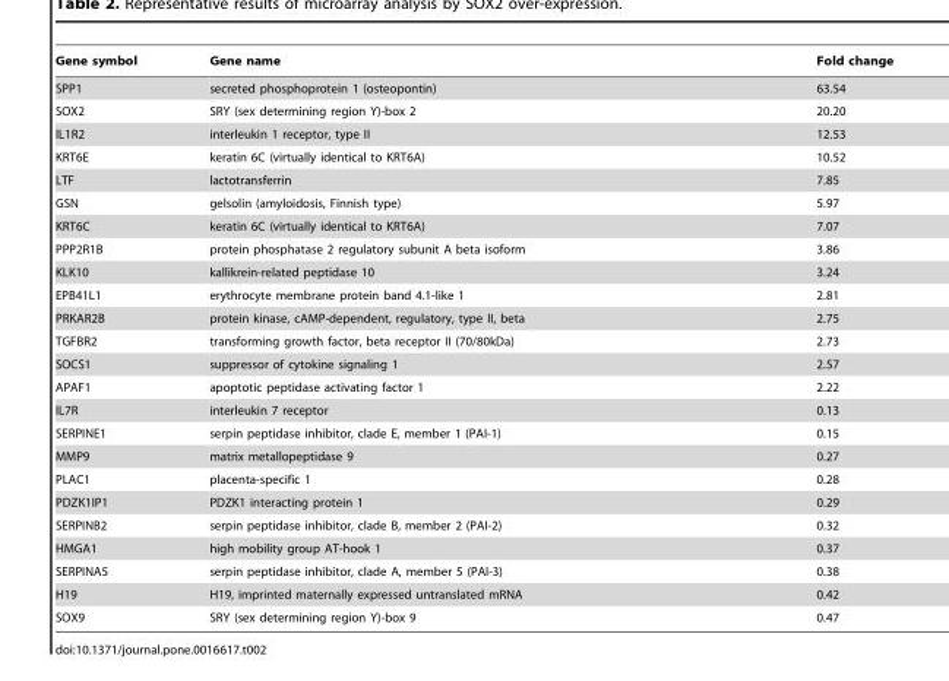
<table><thead><tr><td>Gene symbol</td><td>Gene name</td><td>Fold change</td></tr></thead><tbody><tr><td>SPP1</td><td>secreted phosphoprotein 1 (osteopontin)</td><td>63.54</td></tr><tr><td>SOX2</td><td>SRY (sex determining region Y)-box 2</td><td>20.20</td></tr><tr><td>IL1R2</td><td>interleukin 1 receptor, type II</td><td>12.53</td></tr><tr><td>KRT6E</td><td>keratin 6C (virtually identical to KRT6A)</td><td>10.52</td></tr><tr><td>LTF</td><td>lactotransferrin</td><td>7.85</td></tr><tr><td>GSN</td><td>gelsolin (amyloidosis, Finnish type)</td><td>5.97</td></tr><tr><td>KRT6C</td><td>keratin 6C (virtually identical to KRT6A)</td><td>7.07</td></tr><tr><td>PPP2R1B</td><td>protein phosphatase 2 regulatory subunit A beta isoform</td><td>3.86</td></tr><tr><td>KLK10</td><td>kallikrein-related peptidase 10</td><td>3.24</td></tr><tr><td>EPB41L1</td><td>erythrocyte membrane protein band 4.1-like 1</td><td>2.81</td></tr><tr><td>PRKAR2B</td><td>protein kinase, cAMP-dependent, regulatory, type II, beta</td><td>2.75</td></tr><tr><td>TGFBR2</td><td>transforming growth factor, beta receptor II (70/80kDa)</td><td>2.73</td></tr><tr><td>SOCS1</td><td>suppressor of cytokine signaling 1</td><td>2.57</td></tr><tr><td>APAF1</td><td>apoptotic peptidase activating factor 1</td><td>2.22</td></tr><tr><td>IL7R</td><td>interleukin 7 receptor</td><td>0.13</td></tr><tr><td>SERPINE1</td><td>serpin peptidase inhibitor, clade E, member 1 (PAI-1)</td><td>0.15</td></tr><tr><td>MMP9</td><td>matrix metallopeptidase 9</td><td>0.27</td></tr><tr><td>PLAC1</td><td>placenta-specific 1</td><td>0.28</td></tr><tr><td>PDZK1IP1</td><td>PDZK1 interacting protein 1</td><td>0.29</td></tr><tr><td>SERPINB2</td><td>serpin peptidase inhibitor, clade B, member 2 (PAI-2)</td><td>0.32</td></tr><tr><td>HMGA1</td><td>high mobility group AT-hook 1</td><td>0.37</td></tr><tr><td>SERPINA5</td><td>serpin peptidase inhibitor, clade A, member 5 (PAI-3)</td><td>0.38</td></tr><tr><td>H19</td><td>H19, imprinted maternally expressed untranslated mRNA</td><td>0.42</td></tr><tr><td>SOX9</td><td>SRY (sex determining region Y)-box 9</td><td>0.47</td></tr></tbody></table>